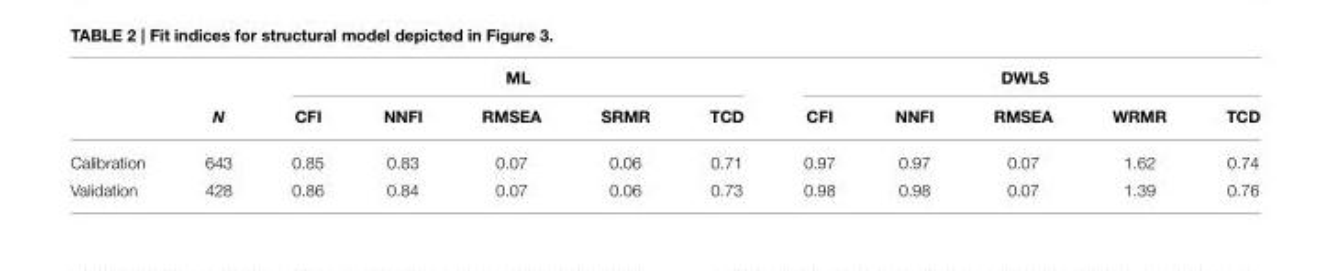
<table><thead><tr><td rowspan="2"></td><td rowspan="2">N</td><td colspan="5">ML</td><td colspan="5">DWLS</td></tr><tr><td>CFI</td><td>NNFI</td><td>RMSEA</td><td>SRMR</td><td>TCD</td><td>CFI</td><td>NNFI</td><td>RMSEA</td><td>WRMR</td><td>TCD</td></tr></thead><tbody><tr><td>Calibration</td><td>643</td><td>0.85</td><td>0.83</td><td>0.07</td><td>0.06</td><td>0.71</td><td>0.97</td><td>0.97</td><td>0.07</td><td>1.62</td><td>0.74</td></tr><tr><td>Validation</td><td>428</td><td>0.86</td><td>0.84</td><td>0.07</td><td>0.06</td><td>0.73</td><td>0.98</td><td>0.98</td><td>0.07</td><td>1.39</td><td>0.76</td></tr></tbody></table>